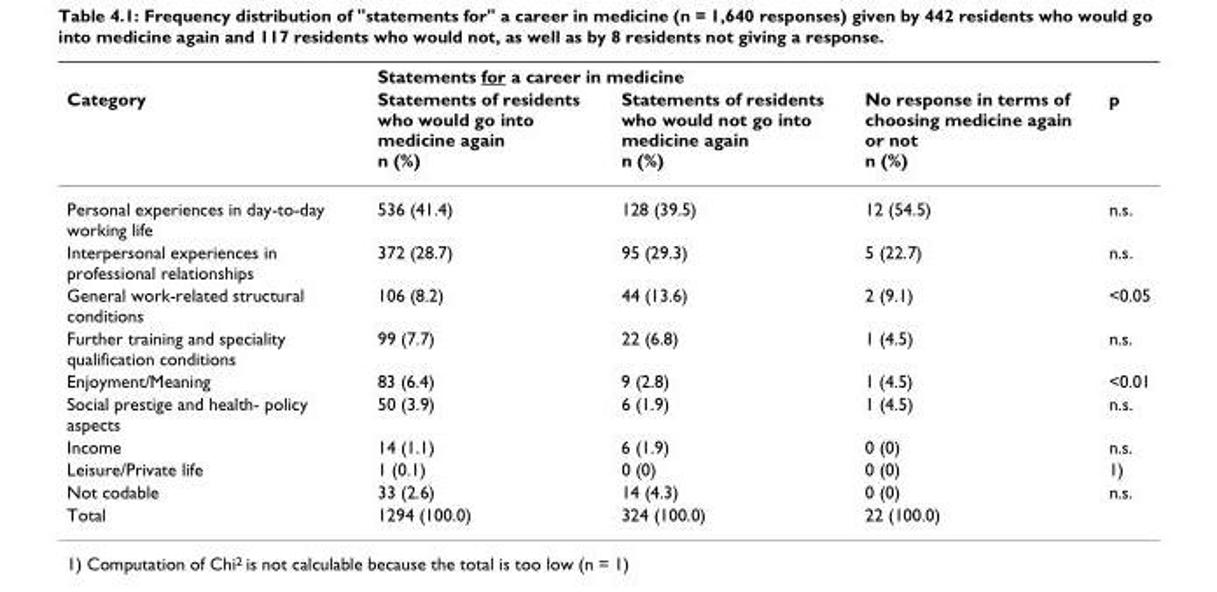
<table><thead><tr><td rowspan="2">Category</td><td colspan="4">Statements for a career in medicine</td></tr><tr><td>Statements of residents who would go into medicine again n (%)</td><td>Statements of residents who would not go into medicine again n (%)</td><td>No response in terms of choosing medicine again or not n (%)</td><td>p</td></tr></thead><tbody><tr><td>Personal experiences in day-to-day working life</td><td>536 (41.4)</td><td>128 (39.5)</td><td>12 (54.5)</td><td>n.s.</td></tr><tr><td>Interpersonal experiences in professional relationships</td><td>372 (28.7)</td><td>95 (29.3)</td><td>5 (22.7)</td><td>n.s.</td></tr><tr><td>General work-related structural conditions</td><td>106 (8.2)</td><td>44 (13.6)</td><td>2 (9.1)</td><td>&lt;0.05</td></tr><tr><td>Further training and speciality qualification conditions</td><td>99 (7.7)</td><td>22 (6.8)</td><td>1 (4.5)</td><td>n.s.</td></tr><tr><td>Enjoyment/Meaning</td><td>83 (6.4)</td><td>9 (2.8)</td><td>1 (4.5)</td><td>&lt;0.01</td></tr><tr><td>Social prestige and health- policy aspects</td><td>50 (3.9)</td><td>6 (1.9)</td><td>1 (4.5)</td><td>n.s.</td></tr><tr><td>Income</td><td>14 (1.1)</td><td>6 (1.9)</td><td>0 (0)</td><td>n.s.</td></tr><tr><td>Leisure/Private life</td><td>1 (0.1)</td><td>0 (0)</td><td>0 (0)</td><td>1)</td></tr><tr><td>Not codable</td><td>33 (2.6)</td><td>14 (4.3)</td><td>0 (0)</td><td>n.s.</td></tr><tr><td>Total</td><td>1294 (100.0)</td><td>324 (100.0)</td><td>22 (100.0)</td><td></td></tr></tbody></table>